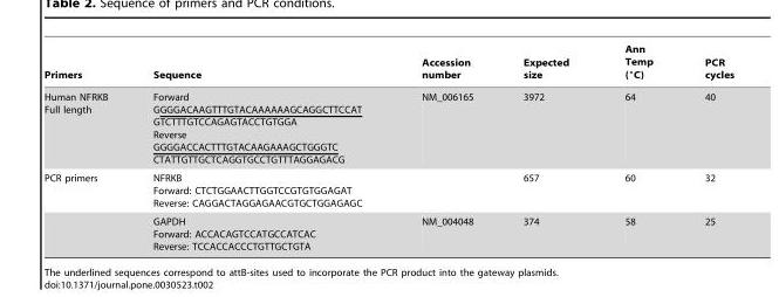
<table><thead><tr><td>Primers</td><td>Sequence</td><td>Accession number</td><td>Expected size</td><td>Ann Temp (°C)</td><td>PCR cycles</td></tr></thead><tbody><tr><td>Human NFRKB Full length</td><td>Forward GGGGACAAGTTTGTACAAAAAAGCAGGCTTCCAT GTCTTTGTCCAGAGTACCTGTGGA Reverse GGGGACCACTTTGTACAAGAAAGCTGGGTC CTATTGTTGCTCAGGTGCCTGTTTAGGAGACG</td><td>NM_006165</td><td>3972</td><td>64</td><td>40</td></tr><tr><td rowspan="2">PCR primers</td><td>NFRKB Forward: CTCTGGAACTTGGTCCGTGTGGAGAT Reverse: CAGGACTAGGAGAACGTGCTGGAGAGC</td><td></td><td>657</td><td>60</td><td>32</td></tr><tr><td>GAPDH Forward: ACCACAGTCCATGCCATCAC Reverse: TCCACCACCCTGTTGCTGTA</td><td>NM_004048</td><td>374</td><td>58</td><td>25</td></tr></tbody></table>